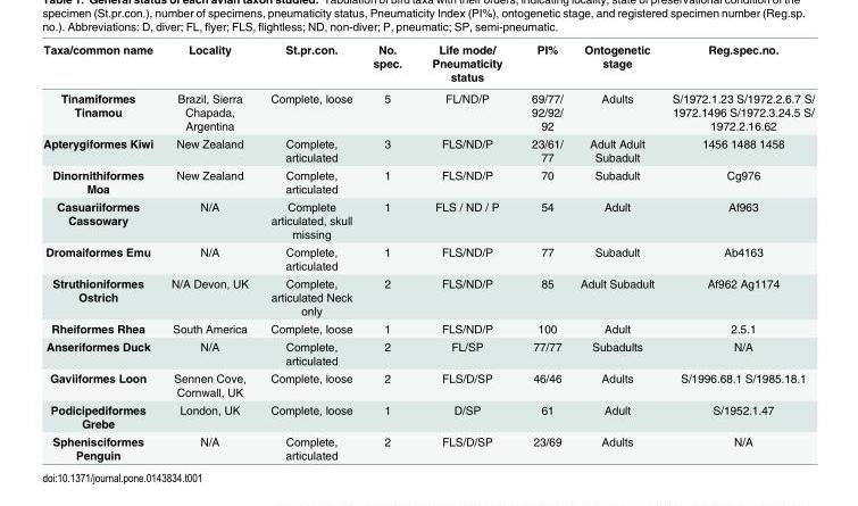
<table><thead><tr><td>Taxa/common name</td><td>Locality</td><td>St.pr.con.</td><td>No. spec.</td><td>Life mode/ Pneumaticity status</td><td>PI%</td><td>Ontogenetic stage</td><td>Reg.spec.no.</td></tr></thead><tbody><tr><td>Tinamiformes Tinamou</td><td>Brazil, Sierra Chapada, Argentina</td><td>Complete, loose</td><td>5</td><td>FL/ND/P</td><td>69/77/ 92/92/ 92</td><td>Adults</td><td>S/1972.1.23 S/1972.2.6.7 S/ 1972.1496 S/1972.3.24.5 S/ 1972.2.16.62</td></tr><tr><td>Apterygiformes Kiwi</td><td>New Zealand</td><td>Complete, articulated</td><td>3</td><td>FLS/ND/P</td><td>23/61/ 77</td><td>Adult Adult Subadult</td><td>1456 1488 1458</td></tr><tr><td>Dinornithiformes Moa</td><td>New Zealand</td><td>Complete, articulated</td><td>1</td><td>FLS/ND/P</td><td>70</td><td>Subadult</td><td>Cg976</td></tr><tr><td>Casuariiformes Cassowary</td><td>N/A</td><td>Complete articulated, skull missing</td><td>1</td><td>FLS / ND / P</td><td>54</td><td>Adult</td><td>Af963</td></tr><tr><td>Dromaiformes Emu</td><td>N/A</td><td>Complete, articulated</td><td>1</td><td>FLS/ND/P</td><td>77</td><td>Subadult</td><td>Ab4163</td></tr><tr><td>Struthioniformes Ostrich</td><td>N/A Devon, UK</td><td>Complete, articulated Neck only</td><td>2</td><td>FLS/ND/P</td><td>85</td><td>Adult Subadult</td><td>Af962 Ag1174</td></tr><tr><td>Rheiformes Rhea</td><td>South America</td><td>Complete, loose</td><td>1</td><td>FLS/ND/P</td><td>100</td><td>Adult</td><td>2.5.1</td></tr><tr><td>Anseriformes Duck</td><td>N/A</td><td>Complete, articulated</td><td>2</td><td>FL/SP</td><td>77/77</td><td>Subadults</td><td>N/A</td></tr><tr><td>Gaviiformes Loon</td><td>Sennen Cove, Cornwall, UK</td><td>Complete, loose</td><td>2</td><td>FLS/D/SP</td><td>46/46</td><td>Adults</td><td>S/1996.68.1 S/1985.18.1</td></tr><tr><td>Podicipediformes Grebe</td><td>London, UK</td><td>Complete, loose</td><td>1</td><td>D/SP</td><td>61</td><td>Adult</td><td>S/1952.1.47</td></tr><tr><td>Sphenisciformes Penguin</td><td>N/A</td><td>Complete, articulated</td><td>2</td><td>FLS/D/SP</td><td>23/69</td><td>Adults</td><td>N/A</td></tr></tbody></table>